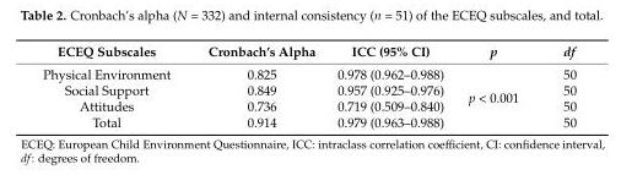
<table><thead><tr><td>ECEQ Subscales</td><td>Cronbach’s Alpha</td><td>ICC (95% CI)</td><td>p</td><td>df</td></tr></thead><tbody><tr><td>Physical Environment</td><td>0.825</td><td>0.978 (0.962–0.988)</td><td rowspan="4">p &lt; 0.001</td><td>50</td></tr><tr><td>Social Support</td><td>0.849</td><td>0.957 (0.925–0.976)</td><td>50</td></tr><tr><td>Attitudes</td><td>0.736</td><td>0.719 (0.509–0.840)</td><td>50</td></tr><tr><td>Total</td><td>0.914</td><td>0.979 (0.963–0.988)</td><td>50</td></tr></tbody></table>